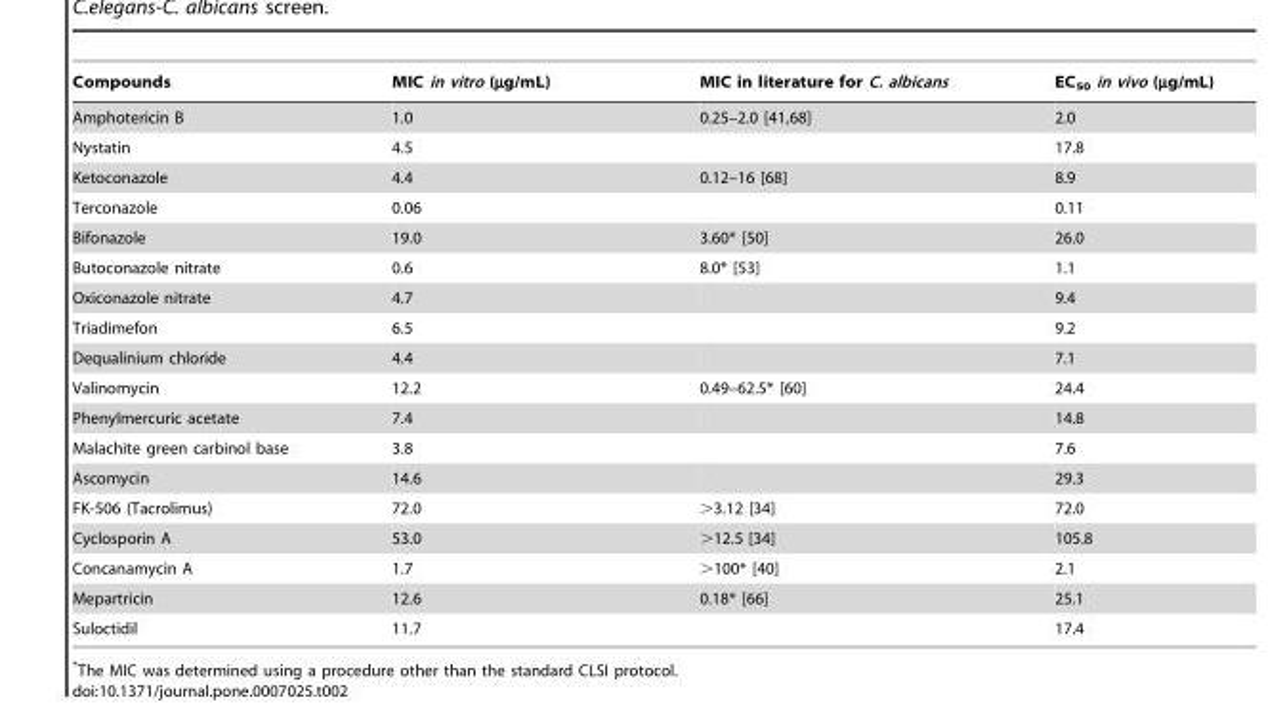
<table><thead><tr><td>Compounds</td><td>MIC in vitro (µg/mL)</td><td>MIC in literature for C. albicans</td><td>EC<sub>50</sub> in vivo (µg/mL)</td></tr></thead><tbody><tr><td>Amphotericin B</td><td>1.0</td><td>0.25–2.0 [41,68]</td><td>2.0</td></tr><tr><td>Nystatin</td><td>4.5</td><td></td><td>17.8</td></tr><tr><td>Ketoconazole</td><td>4.4</td><td>0.12–16 [68]</td><td>8.9</td></tr><tr><td>Terconazole</td><td>0.06</td><td></td><td>0.11</td></tr><tr><td>Bifonazole</td><td>19.0</td><td>3.60* [50]</td><td>26.0</td></tr><tr><td>Butoconazole nitrate</td><td>0.6</td><td>8.0* [53]</td><td>1.1</td></tr><tr><td>Oxiconazole nitrate</td><td>4.7</td><td></td><td>9.4</td></tr><tr><td>Triadimefon</td><td>6.5</td><td></td><td>9.2</td></tr><tr><td>Dequalinium chloride</td><td>4.4</td><td></td><td>7.1</td></tr><tr><td>Valinomycin</td><td>12.2</td><td>0.49–62.5* [60]</td><td>24.4</td></tr><tr><td>Phenylmercuric acetate</td><td>7.4</td><td></td><td>14.8</td></tr><tr><td>Malachite green carbinol base</td><td>3.8</td><td></td><td>7.6</td></tr><tr><td>Ascomycin</td><td>14.6</td><td></td><td>29.3</td></tr><tr><td>FK-506 (Tacrolimus)</td><td>72.0</td><td>&gt;3.12 [34]</td><td>72.0</td></tr><tr><td>Cyclosporin A</td><td>53.0</td><td>&gt;12.5 [34]</td><td>105.8</td></tr><tr><td>Concanamycin A</td><td>1.7</td><td>&gt;100* [40]</td><td>2.1</td></tr><tr><td>Mepartricin</td><td>12.6</td><td>0.18* [66]</td><td>25.1</td></tr><tr><td>Suloctidil</td><td>11.7</td><td></td><td>17.4</td></tr></tbody></table>